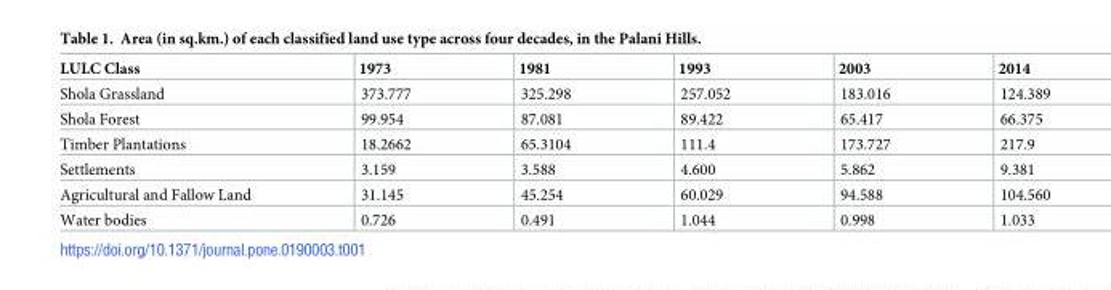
<table><thead><tr><td>LULC Class</td><td>1973</td><td>1981</td><td>1993</td><td>2003</td><td>2014</td></tr></thead><tbody><tr><td>Shola Grassland</td><td>373.777</td><td>325.298</td><td>257.052</td><td>183.016</td><td>124.389</td></tr><tr><td>Shola Forest</td><td>99.954</td><td>87.081</td><td>89.422</td><td>65.417</td><td>66.375</td></tr><tr><td>Timber Plantations</td><td>18.2662</td><td>65.3104</td><td>111.4</td><td>173.727</td><td>217.9</td></tr><tr><td>Settlements</td><td>3.159</td><td>3.588</td><td>4.600</td><td>5.862</td><td>9.381</td></tr><tr><td>Agricultural and Fallow Land</td><td>31.145</td><td>45.254</td><td>60.029</td><td>94.588</td><td>104.560</td></tr><tr><td>Water bodies</td><td>0.726</td><td>0.491</td><td>1.044</td><td>0.998</td><td>1.033</td></tr></tbody></table>